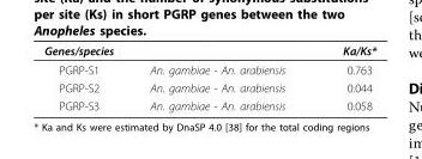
<table><thead><tr><td>Genes/species</td><td></td><td>Ka/Ks*</td></tr></thead><tbody><tr><td>PGRP-S1</td><td>An. gambiae - An. arabiensis</td><td>0.763</td></tr><tr><td>PGRP-S2</td><td>An. gambiae - An. arabiensis</td><td>0.044</td></tr><tr><td>PGRP-S3</td><td>An. gambiae - An. arabiensis</td><td>0.058</td></tr></tbody></table>